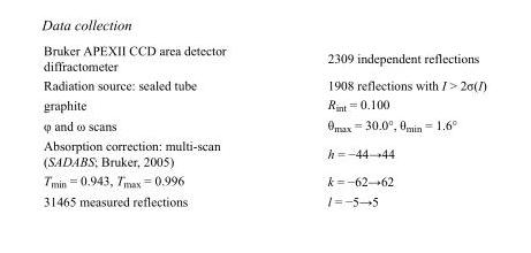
<table><tbody><tr><td>Bruker APEXII CCD area detector diffractometer</td><td>2309 independent reflections</td></tr><tr><td>Radiation source: sealed tube</td><td>1908 reflections with I &gt; 2σ(I)</td></tr><tr><td>graphite</td><td>R<sub>int</sub> = 0.100</td></tr><tr><td>φ and ω scans</td><td>θ<sub>max</sub> = 30.0°, θ<sub>min</sub> = 1.6°</td></tr><tr><td>Absorption correction: multi-scan (SADABS; Bruker, 2005)</td><td>h = −44→44</td></tr><tr><td>T<sub>min</sub> = 0.943, T<sub>max</sub> = 0.996</td><td>k = −62→62</td></tr><tr><td>31465 measured reflections</td><td>l = −5→5</td></tr></tbody></table>